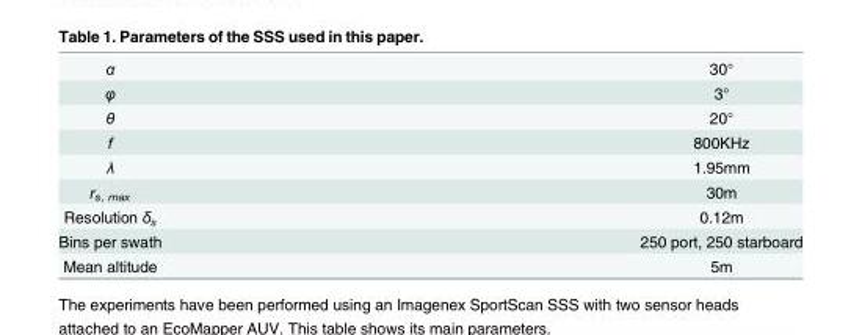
<table><tbody><tr><td>α</td><td>30°</td></tr><tr><td>φ</td><td>3°</td></tr><tr><td>θ</td><td>20°</td></tr><tr><td>f</td><td>800KHz</td></tr><tr><td>λ</td><td>1.95mm</td></tr><tr><td>r<sub>s, max</sub></td><td>30m</td></tr><tr><td>Resolution δ<sub>s</sub></td><td>0.12m</td></tr><tr><td>Bins per swath</td><td>250 port, 250 starboard</td></tr><tr><td>Mean altitude</td><td>5m</td></tr></tbody></table>